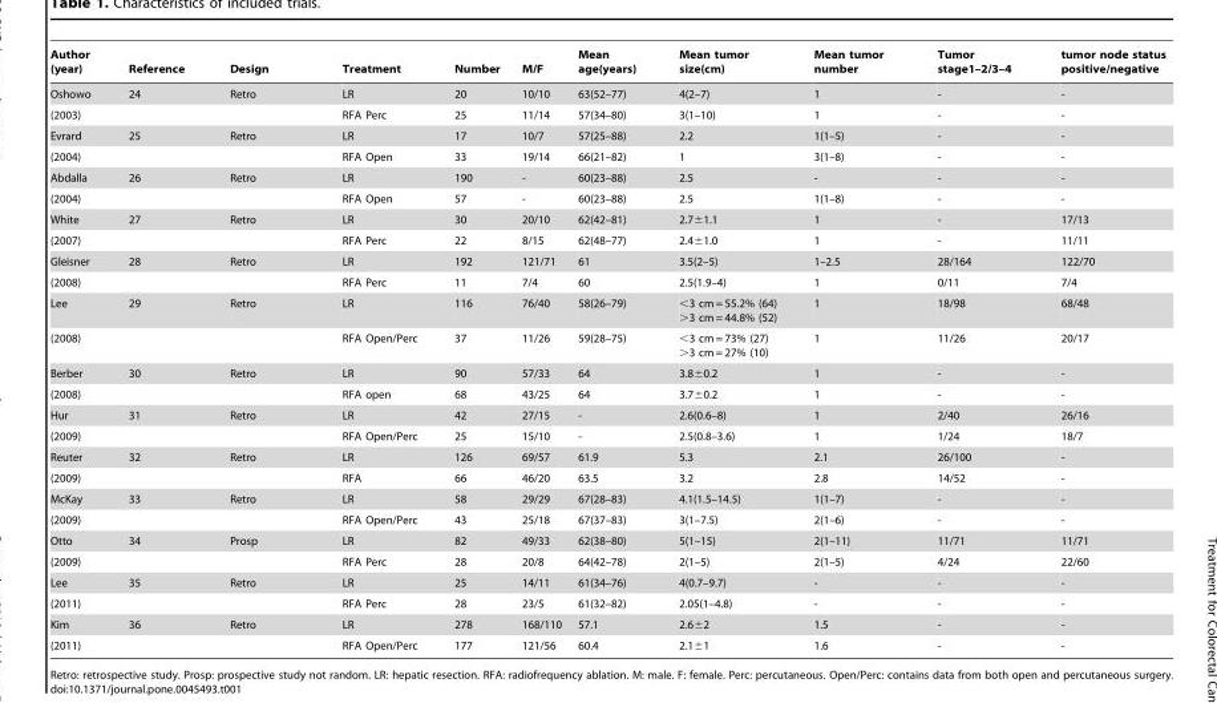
<table><thead><tr><td>Author (year)</td><td>Reference</td><td>Design</td><td>Treatment</td><td>Number</td><td>M/F</td><td>Mean age(years)</td><td>Mean tumor size(cm)</td><td>Mean tumor number</td><td>Tumor stage1–2/3–4</td><td>tumor node status positive/negative</td></tr></thead><tbody><tr><td>Oshowo</td><td>24</td><td>Retro</td><td>LR</td><td>20</td><td>10/10</td><td>63(52–77)</td><td>4(2–7)</td><td>1</td><td>-</td><td>-</td></tr><tr><td>(2003)</td><td></td><td></td><td>RFA Perc</td><td>25</td><td>11/14</td><td>57(34–80)</td><td>3(1–10)</td><td>1</td><td>-</td><td>-</td></tr><tr><td>Evrard</td><td>25</td><td>Retro</td><td>LR</td><td>17</td><td>10/7</td><td>57(25–88)</td><td>2.2</td><td>1(1–5)</td><td>-</td><td>-</td></tr><tr><td>(2004)</td><td></td><td></td><td>RFA Open</td><td>33</td><td>19/14</td><td>66(21–82)</td><td>1</td><td>3(1–8)</td><td>-</td><td>-</td></tr><tr><td>Abdalla</td><td>26</td><td>Retro</td><td>LR</td><td>190</td><td>-</td><td>60(23–88)</td><td>2.5</td><td>-</td><td>-</td><td>-</td></tr><tr><td>(2004)</td><td></td><td></td><td>RFA Open</td><td>57</td><td>-</td><td>60(23–88)</td><td>2.5</td><td>1(1–8)</td><td>-</td><td>-</td></tr><tr><td>White</td><td>27</td><td>Retro</td><td>LR</td><td>30</td><td>20/10</td><td>62(42–81)</td><td>2.7±1.1</td><td>1</td><td>-</td><td>17/13</td></tr><tr><td>(2007)</td><td></td><td></td><td>RFA Perc</td><td>22</td><td>8/15</td><td>62(48–77)</td><td>2.4±1.0</td><td>1</td><td>-</td><td>11/11</td></tr><tr><td>Gleisner</td><td>28</td><td>Retro</td><td>LR</td><td>192</td><td>121/71</td><td>61</td><td>3.5(2–5)</td><td>1–2.5</td><td>28/164</td><td>122/70</td></tr><tr><td>(2008)</td><td></td><td></td><td>RFA Perc</td><td>11</td><td>7/4</td><td>60</td><td>2.5(1.9–4)</td><td>1</td><td>0/11</td><td>7/4</td></tr><tr><td>Lee</td><td>29</td><td>Retro</td><td>LR</td><td>116</td><td>76/40</td><td>58(26–79)</td><td>&lt;3 cm = 55.2% (64) &gt;3 cm = 44.8% (52)</td><td>1</td><td>18/98</td><td>68/48</td></tr><tr><td>(2008)</td><td></td><td></td><td>RFA Open/Perc</td><td>37</td><td>11/26</td><td>59(28–75)</td><td>&lt;3 cm = 73% (27) &gt;3 cm = 27% (10)</td><td>1</td><td>11/26</td><td>20/17</td></tr><tr><td>Berber</td><td>30</td><td>Retro</td><td>LR</td><td>90</td><td>57/33</td><td>64</td><td>3.8±0.2</td><td>1</td><td>-</td><td>-</td></tr><tr><td>(2008)</td><td></td><td></td><td>RFA open</td><td>68</td><td>43/25</td><td>64</td><td>3.7±0.2</td><td>1</td><td>-</td><td>-</td></tr><tr><td>Hur</td><td>31</td><td>Retro</td><td>LR</td><td>42</td><td>27/15</td><td>-</td><td>2.6(0.6–8)</td><td>1</td><td>2/40</td><td>26/16</td></tr><tr><td>(2009)</td><td></td><td></td><td>RFA Open/Perc</td><td>25</td><td>15/10</td><td>-</td><td>2.5(0.8–3.6)</td><td>1</td><td>1/24</td><td>18/7</td></tr><tr><td>Reuter</td><td>32</td><td>Retro</td><td>LR</td><td>126</td><td>69/57</td><td>61.9</td><td>5.3</td><td>2.1</td><td>26/100</td><td>-</td></tr><tr><td>(2009)</td><td></td><td></td><td>RFA</td><td>66</td><td>46/20</td><td>63.5</td><td>3.2</td><td>2.8</td><td>14/52</td><td>-</td></tr><tr><td>McKay</td><td>33</td><td>Retro</td><td>LR</td><td>58</td><td>29/29</td><td>67(28–83)</td><td>4.1(1.5–14.5)</td><td>1(1–7)</td><td>-</td><td>-</td></tr><tr><td>(2009)</td><td></td><td></td><td>RFA Open/Perc</td><td>43</td><td>25/18</td><td>67(37–83)</td><td>3(1–7.5)</td><td>2(1–6)</td><td>-</td><td>-</td></tr><tr><td>Otto</td><td>34</td><td>Prosp</td><td>LR</td><td>82</td><td>49/33</td><td>62(38–80)</td><td>5(1–15)</td><td>2(1–11)</td><td>11/71</td><td>11/71</td></tr><tr><td>(2009)</td><td></td><td></td><td>RFA Perc</td><td>28</td><td>20/8</td><td>64(42–78)</td><td>2(1–5)</td><td>2(1–5)</td><td>4/24</td><td>22/60</td></tr><tr><td>Lee</td><td>35</td><td>Retro</td><td>LR</td><td>25</td><td>14/11</td><td>61(34–76)</td><td>4(0.7–9.7)</td><td>-</td><td>-</td><td>-</td></tr><tr><td>(2011)</td><td></td><td></td><td>RFA Perc</td><td>28</td><td>23/5</td><td>61(32–82)</td><td>2.05(1–4.8)</td><td>-</td><td>-</td><td>-</td></tr><tr><td>Kim</td><td>36</td><td>Retro</td><td>LR</td><td>278</td><td>168/110</td><td>57.1</td><td>2.6±2</td><td>1.5</td><td>-</td><td>-</td></tr><tr><td>(2011)</td><td></td><td></td><td>RFA Open/Perc</td><td>177</td><td>121/56</td><td>60.4</td><td>2.1±1</td><td>1.6</td><td>-</td><td>-</td></tr></tbody></table>